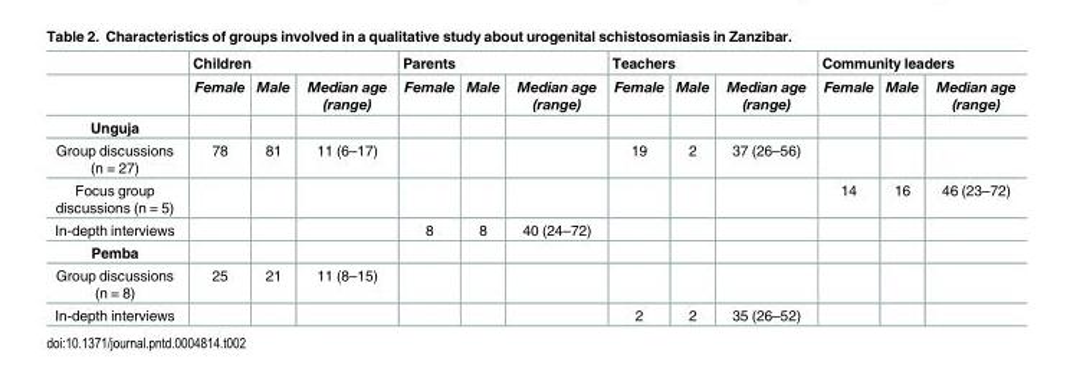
<table><thead><tr><td rowspan="2"></td><td colspan="3">Children</td><td colspan="3">Parents</td><td colspan="3">Teachers</td><td colspan="3">Community leaders</td></tr><tr><td>Female</td><td>Male</td><td>Median age (range)</td><td>Female</td><td>Male</td><td>Median age (range)</td><td>Female</td><td>Male</td><td>Median age (range)</td><td>Female</td><td>Male</td><td>Median age (range)</td></tr></thead><tbody><tr><td colspan="13">Unguja</td></tr><tr><td>Group discussions (n = 27)</td><td>78</td><td>81</td><td>11 (6–17)</td><td></td><td></td><td></td><td>19</td><td>2</td><td>37 (26–56)</td><td></td><td></td><td></td></tr><tr><td>Focus group discussions (n = 5)</td><td></td><td></td><td></td><td></td><td></td><td></td><td></td><td></td><td></td><td>14</td><td>16</td><td>46 (23–72)</td></tr><tr><td>In-depth interviews</td><td></td><td></td><td></td><td>8</td><td>8</td><td>40 (24–72)</td><td></td><td></td><td></td><td></td><td></td><td></td></tr><tr><td colspan="13">Pemba</td></tr><tr><td>Group discussions (n = 8)</td><td>25</td><td>21</td><td>11 (8–15)</td><td></td><td></td><td></td><td></td><td></td><td></td><td></td><td></td><td></td></tr><tr><td>In-depth interviews</td><td></td><td></td><td></td><td></td><td></td><td></td><td>2</td><td>2</td><td>35 (26–52)</td><td></td><td></td><td></td></tr></tbody></table>